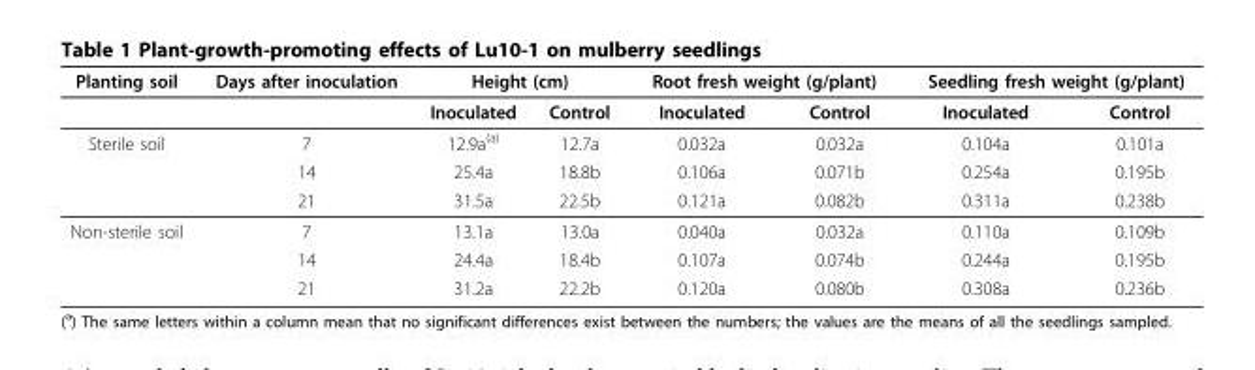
<table><thead><tr><td rowspan="2">Planting soil</td><td rowspan="2">Days after inoculation</td><td colspan="2">Height (cm)</td><td colspan="2">Root fresh weight (g/plant)</td><td colspan="2">Seedling fresh weight (g/plant)</td></tr><tr><td>Inoculated</td><td>Control</td><td>Inoculated</td><td>Control</td><td>Inoculated</td><td>Control</td></tr></thead><tbody><tr><td rowspan="3">Sterile soil</td><td>7</td><td>12.9a<sup>(a)</sup></td><td>12.7a</td><td>0.032a</td><td>0.032a</td><td>0.104a</td><td>0.101a</td></tr><tr><td>14</td><td>25.4a</td><td>18.8b</td><td>0.106a</td><td>0.071b</td><td>0.254a</td><td>0.195b</td></tr><tr><td>21</td><td>31.5a</td><td>22.5b</td><td>0.121a</td><td>0.082b</td><td>0.311a</td><td>0.238b</td></tr><tr><td rowspan="3">Non-sterile soil</td><td>7</td><td>13.1a</td><td>13.0a</td><td>0.040a</td><td>0.032a</td><td>0.110a</td><td>0.109b</td></tr><tr><td>14</td><td>24.4a</td><td>18.4b</td><td>0.107a</td><td>0.074b</td><td>0.244a</td><td>0.195b</td></tr><tr><td>21</td><td>31.2a</td><td>22.2b</td><td>0.120a</td><td>0.080b</td><td>0.308a</td><td>0.236b</td></tr></tbody></table>